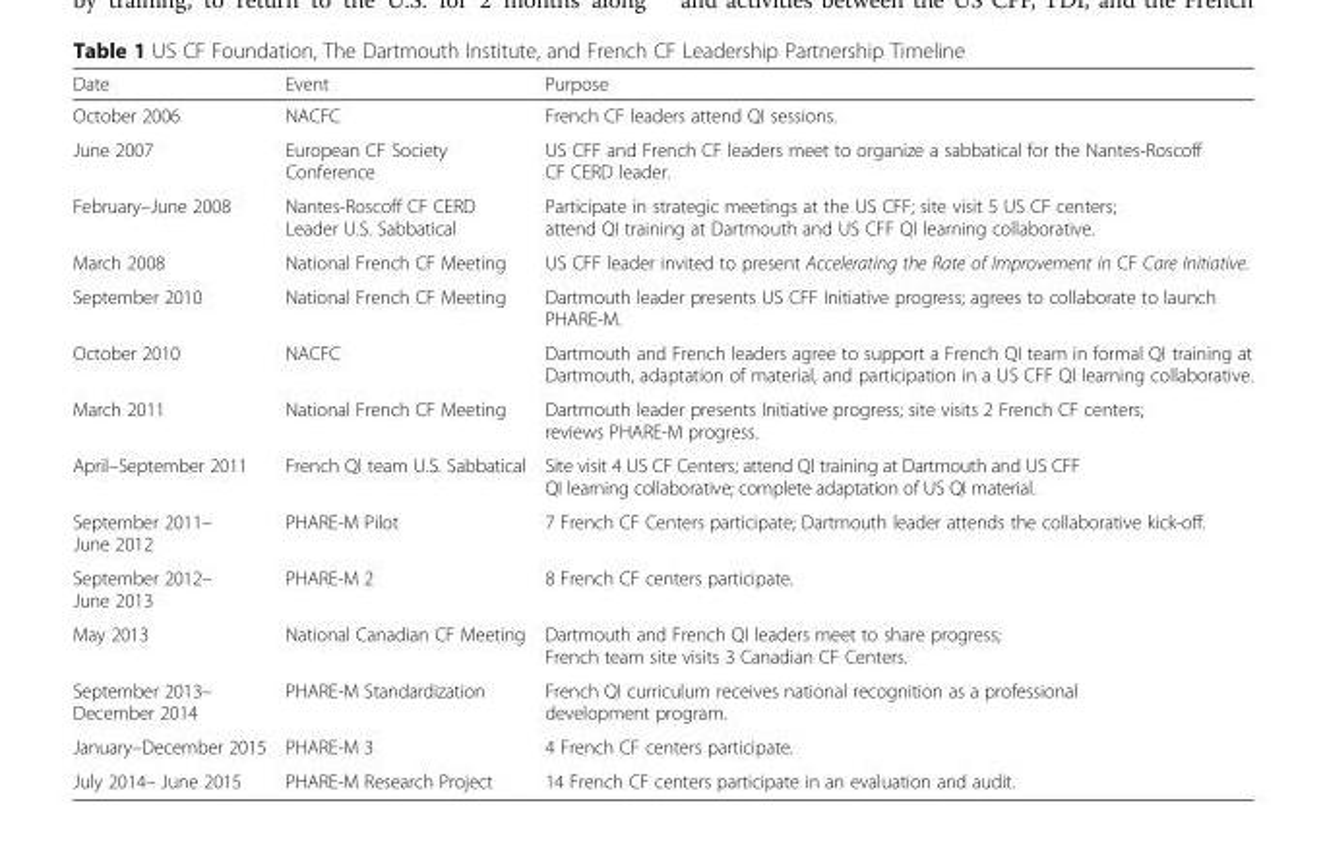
<table><thead><tr><td>Date</td><td>Event</td><td>Purpose</td></tr></thead><tbody><tr><td>October 2006</td><td>NACFC</td><td>French CF leaders attend QI sessions.</td></tr><tr><td>June 2007</td><td>European CF Society Conference</td><td>US CFF and French CF leaders meet to organize a sabbatical for the Nantes-Roscoff CF CERD leader.</td></tr><tr><td>February–June 2008</td><td>Nantes-Roscoff CF CERD Leader U.S. Sabbatical</td><td>Participate in strategic meetings at the US CFF; site visit 5 US CF centers; attend QI training at Dartmouth and US CFF QI learning collaborative.</td></tr><tr><td>March 2008</td><td>National French CF Meeting</td><td>US CFF leader invited to present Accelerating the Rate of Improvement in CF Care Initiative.</td></tr><tr><td>September 2010</td><td>National French CF Meeting</td><td>Dartmouth leader presents US CFF Initiative progress; agrees to collaborate to launch PHARE-M.</td></tr><tr><td>October 2010</td><td>NACFC</td><td>Dartmouth and French leaders agree to support a French QI team in formal QI training at Dartmouth, adaptation of material, and participation in a US CFF QI learning collaborative.</td></tr><tr><td>March 2011</td><td>National French CF Meeting</td><td>Dartmouth leader presents Initiative progress; site visits 2 French CF centers; reviews PHARE-M progress.</td></tr><tr><td>April–September 2011</td><td>French QI team U.S. Sabbatical</td><td>Site visit 4 US CF Centers; attend QI training at Dartmouth and US CFF QI learning collaborative; complete adaptation of US QI material.</td></tr><tr><td>September 2011– June 2012</td><td>PHARE-M Pilot</td><td>7 French CF Centers participate; Dartmouth leader attends the collaborative kick-off.</td></tr><tr><td>September 2012– June 2013</td><td>PHARE-M 2</td><td>8 French CF centers participate.</td></tr><tr><td>May 2013</td><td>National Canadian CF Meeting</td><td>Dartmouth and French QI leaders meet to share progress; French team site visits 3 Canadian CF Centers.</td></tr><tr><td>September 2013– December 2014</td><td>PHARE-M Standardization</td><td>French QI curriculum receives national recognition as a professional development program.</td></tr><tr><td>January–December 2015</td><td>PHARE-M 3</td><td>4 French CF centers participate.</td></tr><tr><td>July 2014– June 2015</td><td>PHARE-M Research Project</td><td>14 French CF centers participate in an evaluation and audit.</td></tr></tbody></table>